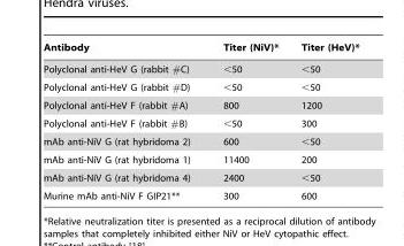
<table><thead><tr><td>Antibody</td><td>Titer (NiV)*</td><td>Titer (HeV)*</td></tr></thead><tbody><tr><td>Polyclonal anti-HeV G (rabbit #C)</td><td>&lt;50</td><td>&lt;50</td></tr><tr><td>Polyclonal anti-HeV G (rabbit #D)</td><td>&lt;50</td><td>&lt;50</td></tr><tr><td>Polyclonal anti-HeV F (rabbit #A)</td><td>800</td><td>1200</td></tr><tr><td>Polyclonal anti-HeV F (rabbit #B)</td><td>&lt;50</td><td>300</td></tr><tr><td>mAb anti-NiV G (rat hybridoma 2)</td><td>600</td><td>&lt;50</td></tr><tr><td>mAb anti-NiV G (rat hybridoma 1)</td><td>11400</td><td>200</td></tr><tr><td>mAb anti-NiV G (rat hybridoma 4)</td><td>2400</td><td>&lt;50</td></tr><tr><td>Murine mAb anti-NiV F GIP21**</td><td>300</td><td>600</td></tr></tbody></table>